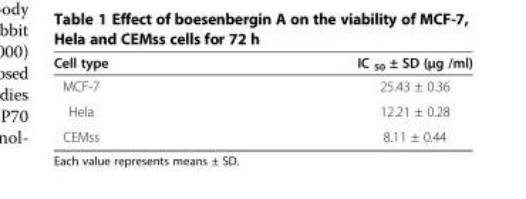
<table><thead><tr><td>Cell type</td><td>IC <sub>50</sub> ± SD (μg /ml)</td></tr></thead><tbody><tr><td>MCF-7</td><td>25.43 ± 0.36</td></tr><tr><td>Hela</td><td>12.21 ± 0.28</td></tr><tr><td>CEMss</td><td>8.11 ± 0.44</td></tr></tbody></table>